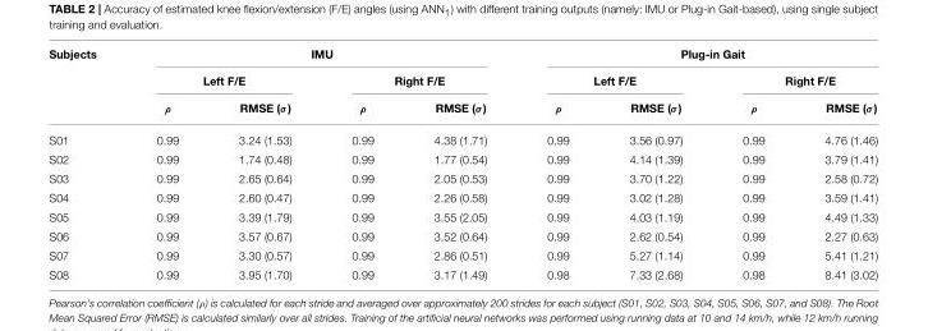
<table><thead><tr><td rowspan="3">Subjects</td><td colspan="4">IMU</td><td colspan="4">Plug-in Gait</td></tr><tr><td colspan="2">Left F/E</td><td colspan="2">Right F/E</td><td colspan="2">Left F/E</td><td colspan="2">Right F/E</td></tr><tr><td>ρ</td><td>RMSE (σ)</td><td>ρ</td><td>RMSE (σ)</td><td>ρ</td><td>RMSE (σ)</td><td>ρ</td><td>RMSE (σ)</td></tr></thead><tbody><tr><td>S01</td><td>0.99</td><td>3.24 (1.53)</td><td>0.99</td><td>4.38 (1.71)</td><td>0.99</td><td>3.56 (0.97)</td><td>0.99</td><td>4.76 (1.46)</td></tr><tr><td>S02</td><td>0.99</td><td>1.74 (0.48)</td><td>0.99</td><td>1.77 (0.54)</td><td>0.99</td><td>4.14 (1.39)</td><td>0.99</td><td>3.79 (1.41)</td></tr><tr><td>S03</td><td>0.99</td><td>2.65 (0.64)</td><td>0.99</td><td>2.05 (0.53)</td><td>0.99</td><td>3.70 (1.22)</td><td>0.99</td><td>2.58 (0.72)</td></tr><tr><td>S04</td><td>0.99</td><td>2.60 (0.47)</td><td>0.99</td><td>2.26 (0.58)</td><td>0.99</td><td>3.02 (1.28)</td><td>0.99</td><td>3.59 (1.41)</td></tr><tr><td>S05</td><td>0.99</td><td>3.39 (1.79)</td><td>0.99</td><td>3.55 (2.05)</td><td>0.99</td><td>4.03 (1.19)</td><td>0.99</td><td>4.49 (1.33)</td></tr><tr><td>S06</td><td>0.99</td><td>3.57 (0.67)</td><td>0.99</td><td>3.52 (0.64)</td><td>0.99</td><td>2.62 (0.54)</td><td>0.99</td><td>2.27 (0.63)</td></tr><tr><td>S07</td><td>0.99</td><td>3.30 (0.57)</td><td>0.99</td><td>2.86 (0.51)</td><td>0.99</td><td>5.27 (1.14)</td><td>0.99</td><td>5.41 (1.21)</td></tr><tr><td>S08</td><td>0.99</td><td>3.95 (1.70)</td><td>0.99</td><td>3.17 (1.49)</td><td>0.98</td><td>7.33 (2.68)</td><td>0.98</td><td>8.41 (3.02)</td></tr></tbody></table>